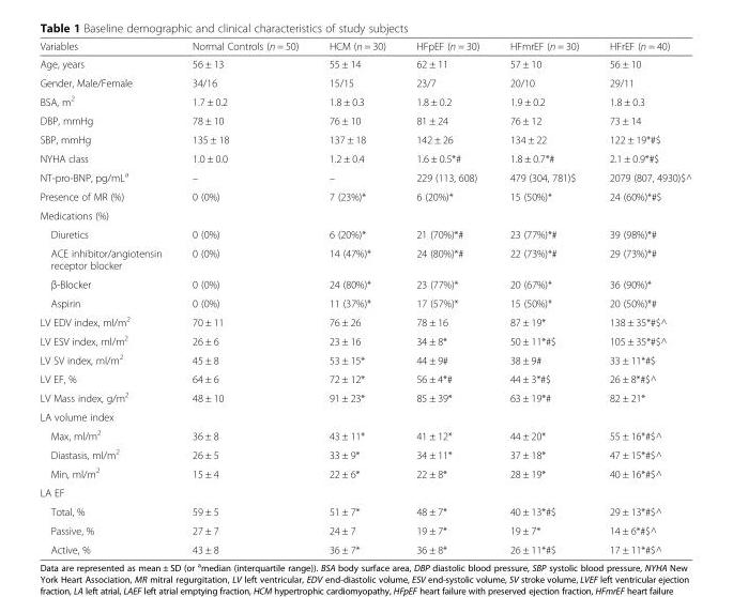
<table><thead><tr><td>Variables</td><td>Normal Controls (n = 50)</td><td>HCM (n = 30)</td><td>HFpEF (n = 30)</td><td>HFmrEF (n = 30)</td><td>HFrEF (n = 40)</td></tr></thead><tbody><tr><td>Age, years</td><td>56 ± 13</td><td>55 ± 14</td><td>62 ± 11</td><td>57 ± 10</td><td>56 ± 10</td></tr><tr><td>Gender, Male/Female</td><td>34/16</td><td>15/15</td><td>23/7</td><td>20/10</td><td>29/11</td></tr><tr><td>BSA, m<sup>2</sup></td><td>1.7 ± 0.2</td><td>1.8 ± 0.3</td><td>1.8 ± 0.2</td><td>1.9 ± 0.2</td><td>1.8 ± 0.3</td></tr><tr><td>DBP, mmHg</td><td>78 ± 10</td><td>76 ± 10</td><td>81 ± 24</td><td>76 ± 12</td><td>73 ± 14</td></tr><tr><td>SBP, mmHg</td><td>135 ± 18</td><td>137 ± 18</td><td>142 ± 26</td><td>134 ± 22</td><td>122 ± 19*#$</td></tr><tr><td>NYHA class</td><td>1.0 ± 0.0</td><td>1.2 ± 0.4</td><td>1.6 ± 0.5*#</td><td>1.8 ± 0.7*#</td><td>2.1 ± 0.9*#$</td></tr><tr><td>NT-pro-BNP, pg/mL<sup>a</sup></td><td>–</td><td>–</td><td>229 (113, 608)</td><td>479 (304, 781)$</td><td>2079 (807, 4930)$^</td></tr><tr><td>Presence of MR (%)</td><td>0 (0%)</td><td>7 (23%)*</td><td>6 (20%)*</td><td>15 (50%)*</td><td>24 (60%)*#$</td></tr><tr><td colspan="6">Medications (%)</td></tr><tr><td>Diuretics</td><td>0 (0%)</td><td>6 (20%)*</td><td>21 (70%)*#</td><td>23 (77%)*#</td><td>39 (98%)*#</td></tr><tr><td>ACE inhibitor/angiotensin receptor blocker</td><td>0 (0%)</td><td>14 (47%)*</td><td>24 (80%)*#</td><td>22 (73%)*#</td><td>29 (73%)*#</td></tr><tr><td>β-Blocker</td><td>0 (0%)</td><td>24 (80%)*</td><td>23 (77%)*</td><td>20 (67%)*</td><td>36 (90%)*</td></tr><tr><td>Aspirin</td><td>0 (0%)</td><td>11 (37%)*</td><td>17 (57%)*</td><td>15 (50%)*</td><td>20 (50%)*#</td></tr><tr><td>LV EDV index, ml/m<sup>2</sup></td><td>70 ± 11</td><td>76 ± 26</td><td>78 ± 16</td><td>87 ± 19*</td><td>138 ± 35*#$^</td></tr><tr><td>LV ESV index, ml/m<sup>2</sup></td><td>26 ± 6</td><td>23 ± 16</td><td>34 ± 8*</td><td>50 ± 11*#$</td><td>105 ± 35*#$^</td></tr><tr><td>LV SV index, ml/m<sup>2</sup></td><td>45 ± 8</td><td>53 ± 15*</td><td>44 ± 9#</td><td>38 ± 9#</td><td>33 ± 11*#$</td></tr><tr><td>LV EF, %</td><td>64 ± 6</td><td>72 ± 12*</td><td>56 ± 4*#</td><td>44 ± 3*#$</td><td>26 ± 8*#$^</td></tr><tr><td>LV Mass index, g/m<sup>2</sup></td><td>48 ± 10</td><td>91 ± 23*</td><td>85 ± 39*</td><td>63 ± 19*#</td><td>82 ± 21*</td></tr><tr><td colspan="6">LA volume index</td></tr><tr><td>Max, ml/m<sup>2</sup></td><td>36 ± 8</td><td>43 ± 11*</td><td>41 ± 12*</td><td>44 ± 20*</td><td>55 ± 16*#$^</td></tr><tr><td>Diastasis, ml/m<sup>2</sup></td><td>26 ± 5</td><td>33 ± 9*</td><td>34 ± 11*</td><td>37 ± 18*</td><td>47 ± 15*#$^</td></tr><tr><td>Min, ml/m<sup>2</sup></td><td>15 ± 4</td><td>22 ± 6*</td><td>22 ± 8*</td><td>28 ± 19*</td><td>40 ± 16*#$^</td></tr><tr><td colspan="6">LA EF</td></tr><tr><td>Total, %</td><td>59 ± 5</td><td>51 ± 7*</td><td>48 ± 7*</td><td>40 ± 13*#$</td><td>29 ± 13*#$^</td></tr><tr><td>Passive, %</td><td>27 ± 7</td><td>24 ± 7</td><td>19 ± 7*</td><td>19 ± 7*</td><td>14 ± 6*#$^</td></tr><tr><td>Active, %</td><td>43 ± 8</td><td>36 ± 7*</td><td>36 ± 8*</td><td>26 ± 11*#$</td><td>17 ± 11*#$^</td></tr></tbody></table>